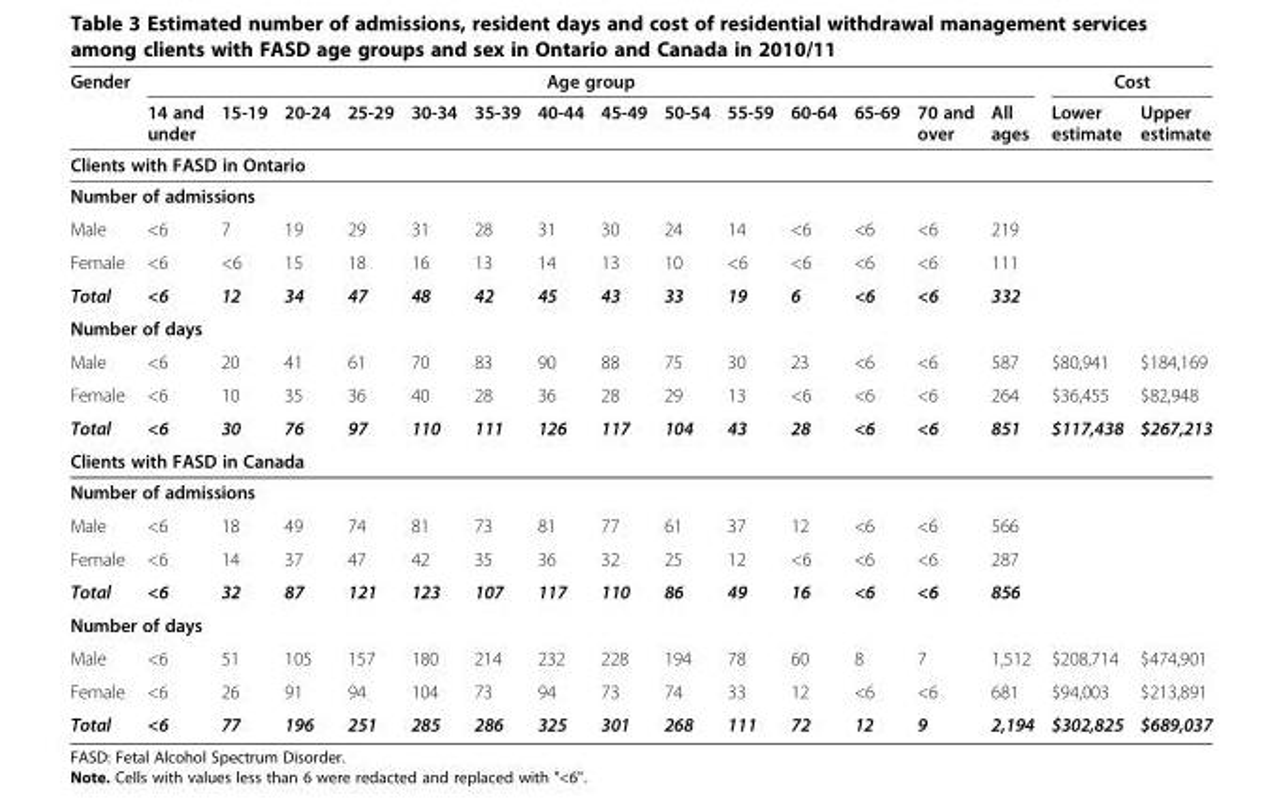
<table><thead><tr><td rowspan="2">Gender</td><td colspan="14">Age group</td><td colspan="2">Cost</td></tr><tr><td>14 and under</td><td>15-19</td><td>20-24</td><td>25-29</td><td>30-34</td><td>35-39</td><td>40-44</td><td>45-49</td><td>50-54</td><td>55-59</td><td>60-64</td><td>65-69</td><td>70 and over</td><td>All ages</td><td>Lower estimate</td><td>Upper estimate</td></tr></thead><tbody><tr><td colspan="17">Clients with FASD in Ontario</td></tr><tr><td colspan="17">Number of admissions</td></tr><tr><td>Male</td><td>&lt;6</td><td>7</td><td>19</td><td>29</td><td>31</td><td>28</td><td>31</td><td>30</td><td>24</td><td>14</td><td>&lt;6</td><td>&lt;6</td><td>&lt;6</td><td>219</td><td></td><td></td></tr><tr><td>Female</td><td>&lt;6</td><td>&lt;6</td><td>15</td><td>18</td><td>16</td><td>13</td><td>14</td><td>13</td><td>10</td><td>&lt;6</td><td>&lt;6</td><td>&lt;6</td><td>&lt;6</td><td>111</td><td></td><td></td></tr><tr><td>Total</td><td>&lt;6</td><td>12</td><td>34</td><td>47</td><td>48</td><td>42</td><td>45</td><td>43</td><td>33</td><td>19</td><td>6</td><td>&lt;6</td><td>&lt;6</td><td>332</td><td></td><td></td></tr><tr><td colspan="17">Number of days</td></tr><tr><td>Male</td><td>&lt;6</td><td>20</td><td>41</td><td>61</td><td>70</td><td>83</td><td>90</td><td>88</td><td>75</td><td>30</td><td>23</td><td>&lt;6</td><td>&lt;6</td><td>587</td><td>$80,941</td><td>$184,169</td></tr><tr><td>Female</td><td>&lt;6</td><td>10</td><td>35</td><td>36</td><td>40</td><td>28</td><td>36</td><td>28</td><td>29</td><td>13</td><td>&lt;6</td><td>&lt;6</td><td>&lt;6</td><td>264</td><td>$36,455</td><td>$82,948</td></tr><tr><td>Total</td><td>&lt;6</td><td>30</td><td>76</td><td>97</td><td>110</td><td>111</td><td>126</td><td>117</td><td>104</td><td>43</td><td>28</td><td>&lt;6</td><td>&lt;6</td><td>851</td><td>$117,438</td><td>$267,213</td></tr><tr><td colspan="17">Clients with FASD in Canada</td></tr><tr><td colspan="17">Number of admissions</td></tr><tr><td>Male</td><td>&lt;6</td><td>18</td><td>49</td><td>74</td><td>81</td><td>73</td><td>81</td><td>77</td><td>61</td><td>37</td><td>12</td><td>&lt;6</td><td>&lt;6</td><td>566</td><td></td><td></td></tr><tr><td>Female</td><td>&lt;6</td><td>14</td><td>37</td><td>47</td><td>42</td><td>35</td><td>36</td><td>32</td><td>25</td><td>12</td><td>&lt;6</td><td>&lt;6</td><td>&lt;6</td><td>287</td><td></td><td></td></tr><tr><td>Total</td><td>&lt;6</td><td>32</td><td>87</td><td>121</td><td>123</td><td>107</td><td>117</td><td>110</td><td>86</td><td>49</td><td>16</td><td>&lt;6</td><td>&lt;6</td><td>856</td><td></td><td></td></tr><tr><td colspan="17">Number of days</td></tr><tr><td>Male</td><td>&lt;6</td><td>51</td><td>105</td><td>157</td><td>180</td><td>214</td><td>232</td><td>228</td><td>194</td><td>78</td><td>60</td><td>8</td><td>7</td><td>1,512</td><td>$208,714</td><td>$474,901</td></tr><tr><td>Female</td><td>&lt;6</td><td>26</td><td>91</td><td>94</td><td>104</td><td>73</td><td>94</td><td>73</td><td>74</td><td>33</td><td>12</td><td>&lt;6</td><td>&lt;6</td><td>681</td><td>$94,003</td><td>$213,891</td></tr><tr><td>Total</td><td>&lt;6</td><td>77</td><td>196</td><td>251</td><td>285</td><td>286</td><td>325</td><td>301</td><td>268</td><td>111</td><td>72</td><td>12</td><td>9</td><td>2,194</td><td>$302,825</td><td>$689,037</td></tr></tbody></table>